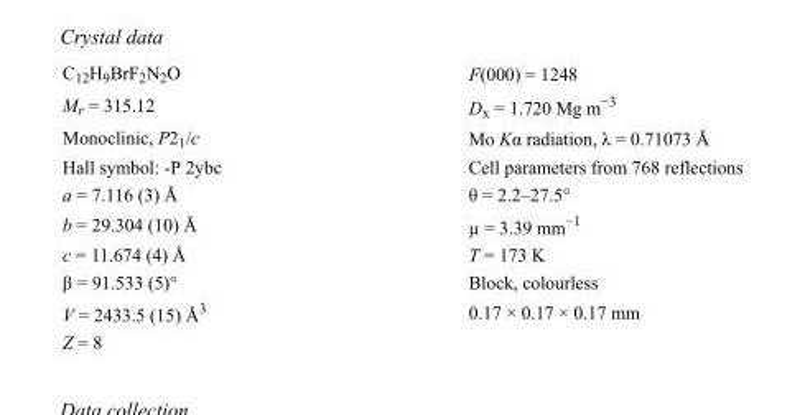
<table><tbody><tr><td>C<sub>12</sub>H<sub>9</sub>BrF<sub>2</sub>N<sub>2</sub>O</td><td>F(000) = 1248</td></tr><tr><td>M<sub>r</sub> = 315.12</td><td>D<sub>x</sub> = 1.720 Mg m<sup>−3</sup></td></tr><tr><td>Monoclinic, P2<sub>1</sub>/c</td><td>Mo Kα radiation, λ = 0.71073 Å</td></tr><tr><td>Hall symbol: -P 2ybc</td><td>Cell parameters from 768 reflections</td></tr><tr><td>a = 7.116 (3) Å</td><td>θ = 2.2–27.5°</td></tr><tr><td>b = 29.304 (10) Å</td><td>µ = 3.39 mm<sup>−1</sup></td></tr><tr><td>c = 11.674 (4) Å</td><td>T = 173 K</td></tr><tr><td>β = 91.533 (5)°</td><td>Block, colourless</td></tr><tr><td>V = 2433.5 (15) Å<sup>3</sup></td><td>0.17 × 0.17 × 0.17 mm</td></tr><tr><td>Z = 8</td><td></td></tr></tbody></table>